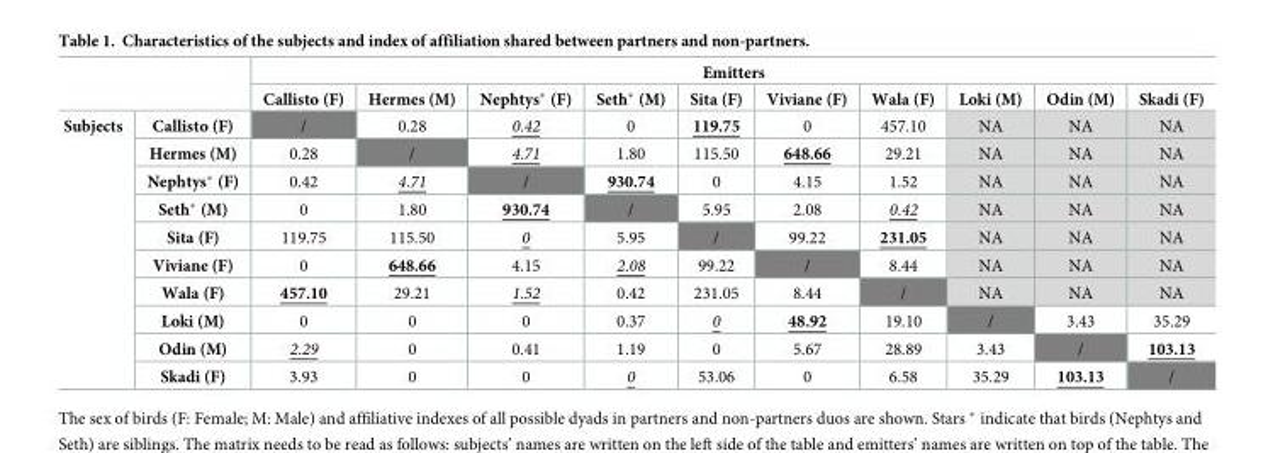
<table><thead><tr><td rowspan="2"></td><td rowspan="2"></td><td colspan="10">Emitters</td></tr><tr><td>Callisto (F)</td><td>Hermes (M)</td><td>Nephtys* (F)</td><td>Seth* (M)</td><td>Sita (F)</td><td>Viviane (F)</td><td>Wala (F)</td><td>Loki (M)</td><td>Odin (M)</td><td>Skadi (F)</td></tr></thead><tbody><tr><td rowspan="10">Subjects</td><td>Callisto (F)</td><td>/</td><td>0.28</td><td>0.42</td><td>0</td><td>119.75</td><td>0</td><td>457.10</td><td>NA</td><td>NA</td><td>NA</td></tr><tr><td>Hermes (M)</td><td>0.28</td><td>/</td><td>4.71</td><td>1.80</td><td>115.50</td><td>648.66</td><td>29.21</td><td>NA</td><td>NA</td><td>NA</td></tr><tr><td>Nephtys* (F)</td><td>0.42</td><td>4.71</td><td>/</td><td>930.74</td><td>0</td><td>4.15</td><td>1.52</td><td>NA</td><td>NA</td><td>NA</td></tr><tr><td>Seth* (M)</td><td>0</td><td>1.80</td><td>930.74</td><td>/</td><td>5.95</td><td>2.08</td><td>0.42</td><td>NA</td><td>NA</td><td>NA</td></tr><tr><td>Sita (F)</td><td>119.75</td><td>115.50</td><td>0</td><td>5.95</td><td>/</td><td>99.22</td><td>231.05</td><td>NA</td><td>NA</td><td>NA</td></tr><tr><td>Viviane (F)</td><td>0</td><td>648.66</td><td>4.15</td><td>2.08</td><td>99.22</td><td>/</td><td>8.44</td><td>NA</td><td>NA</td><td>NA</td></tr><tr><td>Wala (F)</td><td>457.10</td><td>29.21</td><td>1.52</td><td>0.42</td><td>231.05</td><td>8.44</td><td>/</td><td>NA</td><td>NA</td><td>NA</td></tr><tr><td>Loki (M)</td><td>0</td><td>0</td><td>0</td><td>0.37</td><td>0</td><td>48.92</td><td>19.10</td><td>/</td><td>3.43</td><td>35.29</td></tr><tr><td>Odin (M)</td><td>2.29</td><td>0</td><td>0.41</td><td>1.19</td><td>0</td><td>5.67</td><td>28.89</td><td>3.43</td><td>/</td><td>103.13</td></tr><tr><td>Skadi (F)</td><td>3.93</td><td>0</td><td>0</td><td>0</td><td>53.06</td><td>0</td><td>6.58</td><td>35.29</td><td>103.13</td><td>/</td></tr></tbody></table>